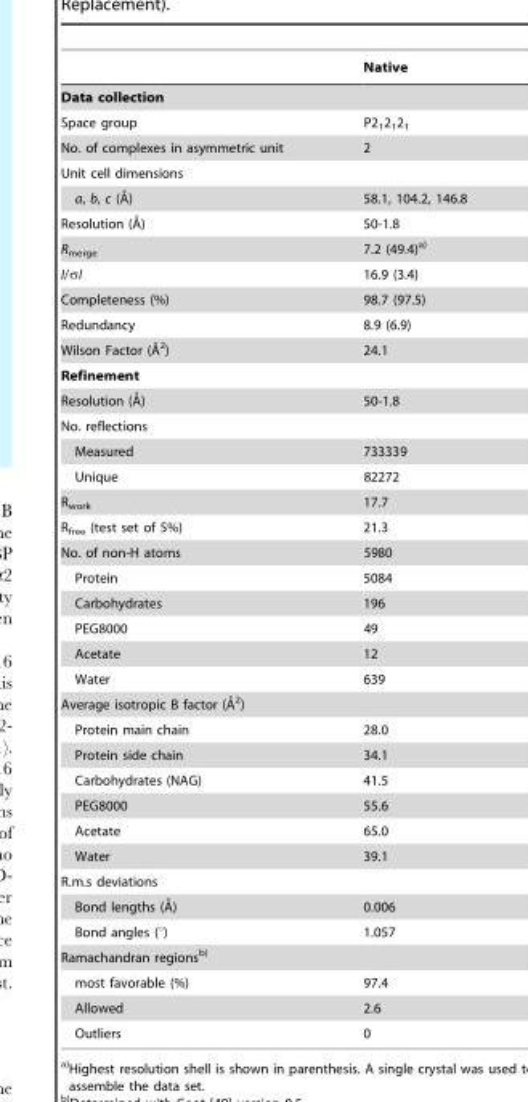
<table><thead><tr><td></td><td>Native</td></tr></thead><tbody><tr><td colspan="2">Data collection</td></tr><tr><td>Space group</td><td>P2<sub>1</sub>2<sub>1</sub>2<sub>1</sub></td></tr><tr><td>No. of complexes in asymmetric unit</td><td>2</td></tr><tr><td colspan="2">Unit cell dimensions</td></tr><tr><td>a, b, c (A˚)</td><td>58.1, 104.2, 146.8</td></tr><tr><td>Resolution (A˚)</td><td>50-1.8</td></tr><tr><td>R<sub>merge</sub></td><td>7.2 (49.4)a)</td></tr><tr><td>I/σI</td><td>16.9 (3.4)</td></tr><tr><td>Completeness (%)</td><td>98.7 (97.5)</td></tr><tr><td>Redundancy</td><td>8.9 (6.9)</td></tr><tr><td>Wilson Factor (A˚ 2)</td><td>24.1</td></tr><tr><td colspan="2">Refinement</td></tr><tr><td>Resolution (A˚)</td><td>50-1.8</td></tr><tr><td colspan="2">No. reflections</td></tr><tr><td>Measured</td><td>733339</td></tr><tr><td>Unique</td><td>82272</td></tr><tr><td>R<sub>work</sub></td><td>17.7</td></tr><tr><td>R<sub>free</sub> (test set of 5%)</td><td>21.3</td></tr><tr><td>No. of non-H atoms</td><td>5980</td></tr><tr><td>Protein</td><td>5084</td></tr><tr><td>Carbohydrates</td><td>196</td></tr><tr><td>PEG8000</td><td>49</td></tr><tr><td>Acetate</td><td>12</td></tr><tr><td>Water</td><td>639</td></tr><tr><td colspan="2">Average isotropic B factor (A˚ 2)</td></tr><tr><td>Protein main chain</td><td>28.0</td></tr><tr><td>Protein side chain</td><td>34.1</td></tr><tr><td>Carbohydrates (NAG)</td><td>41.5</td></tr><tr><td>PEG8000</td><td>55.6</td></tr><tr><td>Acetate</td><td>65.0</td></tr><tr><td>Water</td><td>39.1</td></tr><tr><td colspan="2">R.m.s deviations</td></tr><tr><td>Bond lengths (A˚)</td><td>0.006</td></tr><tr><td>Bond angles (°)</td><td>1.057</td></tr><tr><td colspan="2">Ramachandran regionsb)</td></tr><tr><td>most favorable (%)</td><td>97.4</td></tr><tr><td>Allowed</td><td>2.6</td></tr><tr><td>Outliers</td><td>0</td></tr></tbody></table>